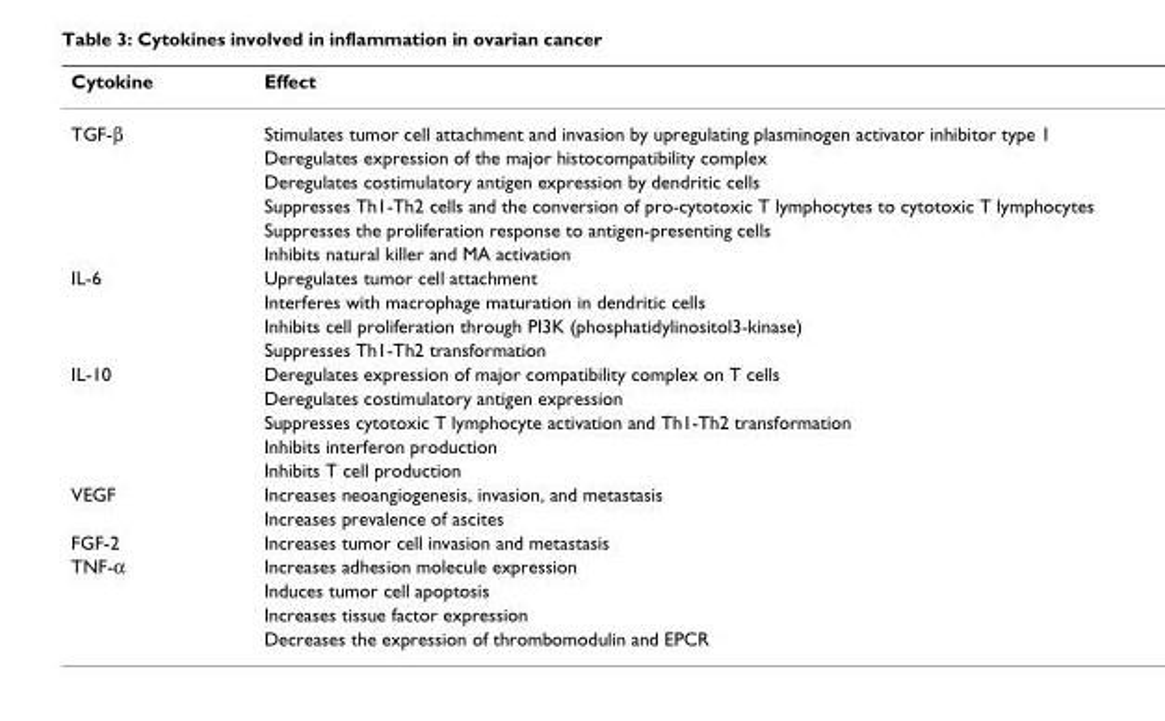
<table><thead><tr><td>Cytokine</td><td>Effect</td></tr></thead><tbody><tr><td rowspan="6">TGF-β</td><td>Stimulates tumor cell attachment and invasion by upregulating plasminogen activator inhibitor type 1</td></tr><tr><td>Deregulates expression of the major histocompatibility complex</td></tr><tr><td>Deregulates costimulatory antigen expression by dendritic cells</td></tr><tr><td>Suppresses Th1-Th2 cells and the conversion of pro-cytotoxic T lymphocytes to cytotoxic T lymphocytes</td></tr><tr><td>Suppresses the proliferation response to antigen-presenting cells</td></tr><tr><td>Inhibits natural killer and MA activation</td></tr><tr><td rowspan="4">IL-6</td><td>Upregulates tumor cell attachment</td></tr><tr><td>Interferes with macrophage maturation in dendritic cells</td></tr><tr><td>Inhibits cell proliferation through PI3K (phosphatidylinositol3-kinase)</td></tr><tr><td>Suppresses Th1-Th2 transformation</td></tr><tr><td rowspan="5">IL-10</td><td>Deregulates expression of major compatibility complex on T cells</td></tr><tr><td>Deregulates costimulatory antigen expression</td></tr><tr><td>Suppresses cytotoxic T lymphocyte activation and Th1-Th2 transformation</td></tr><tr><td>Inhibits interferon production</td></tr><tr><td>Inhibits T cell production</td></tr><tr><td rowspan="2">VEGF</td><td>Increases neoangiogenesis, invasion, and metastasis</td></tr><tr><td>Increases prevalence of ascites</td></tr><tr><td>FGF-2</td><td>Increases tumor cell invasion and metastasis</td></tr><tr><td rowspan="4">TNF-α</td><td>Increases adhesion molecule expression</td></tr><tr><td>Induces tumor cell apoptosis</td></tr><tr><td>Increases tissue factor expression</td></tr><tr><td>Decreases the expression of thrombomodulin and EPCR</td></tr></tbody></table>